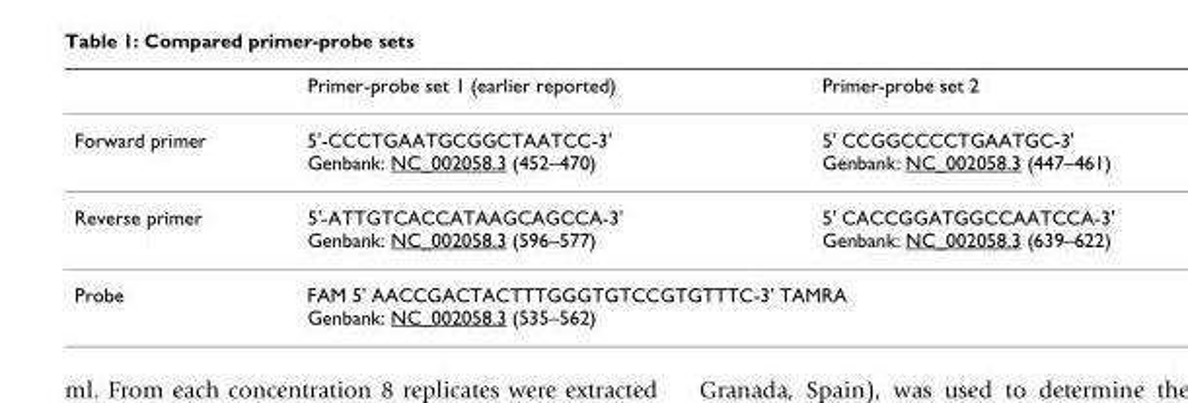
<table><thead><tr><td></td><td>Primer-probe set 1 (earlier reported)</td><td>Primer-probe set 2</td></tr></thead><tbody><tr><td>Forward primer</td><td>5&#x27;-CCCTGAATGCGGCTAATCC-3&#x27; Genbank: NC_002058.3 (452–470)</td><td>5&#x27; CCGGCCCCTGAATGC-3&#x27; Genbank: NC_002058.3 (447–461)</td></tr><tr><td>Reverse primer</td><td>5&#x27;-ATTGTCACCATAAGCAGCCA-3&#x27; Genbank: NC_002058.3 (596–577)</td><td>5&#x27; CACCGGATGGCCAATCCA-3&#x27; Genbank: NC_002058.3 (639–622)</td></tr><tr><td>Probe</td><td colspan="2">FAM 5&#x27; AACCGACTACTTTGGGTGTCCGTGTTTC-3&#x27; TAMRA Genbank: NC_002058.3 (535–562)</td></tr></tbody></table>